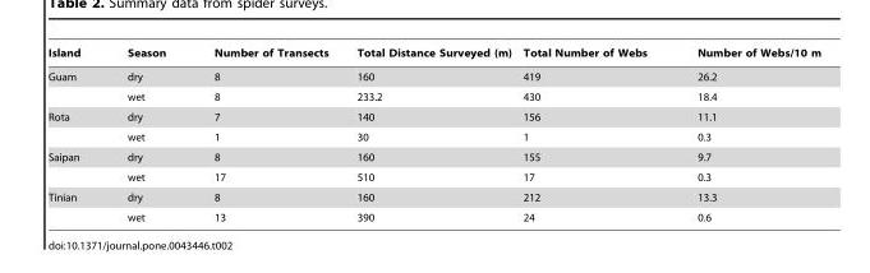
<table><thead><tr><td>Island</td><td>Season</td><td>Number of Transects</td><td>Total Distance Surveyed (m)</td><td>Total Number of Webs</td><td>Number of Webs/10 m</td></tr></thead><tbody><tr><td rowspan="2">Guam</td><td>dry</td><td>8</td><td>160</td><td>419</td><td>26.2</td></tr><tr><td>wet</td><td>8</td><td>233.2</td><td>430</td><td>18.4</td></tr><tr><td rowspan="2">Rota</td><td>dry</td><td>7</td><td>140</td><td>156</td><td>11.1</td></tr><tr><td>wet</td><td>1</td><td>30</td><td>1</td><td>0.3</td></tr><tr><td rowspan="2">Saipan</td><td>dry</td><td>8</td><td>160</td><td>155</td><td>9.7</td></tr><tr><td>wet</td><td>17</td><td>510</td><td>17</td><td>0.3</td></tr><tr><td rowspan="2">Tinian</td><td>dry</td><td>8</td><td>160</td><td>212</td><td>13.3</td></tr><tr><td>wet</td><td>13</td><td>390</td><td>24</td><td>0.6</td></tr></tbody></table>